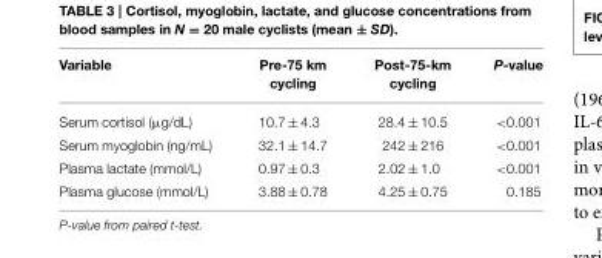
<table><thead><tr><td>Variable</td><td>Pre-75 km cycling</td><td>Post-75-km cycling</td><td>P-value</td></tr></thead><tbody><tr><td>Serum cortisol (µg/dL)</td><td>10.7 ± 4.3</td><td>28.4 ± 10.5</td><td>&lt;0.001</td></tr><tr><td>Serum myoglobin (ng/mL)</td><td>32.1 ± 14.7</td><td>242 ± 216</td><td>&lt;0.001</td></tr><tr><td>Plasma lactate (mmol/L)</td><td>0.97 ± 0.3</td><td>2.02 ± 1.0</td><td>&lt;0.001</td></tr><tr><td>Plasma glucose (mmol/L)</td><td>3.88 ± 0.78</td><td>4.25 ± 0.75</td><td>0.185</td></tr></tbody></table>